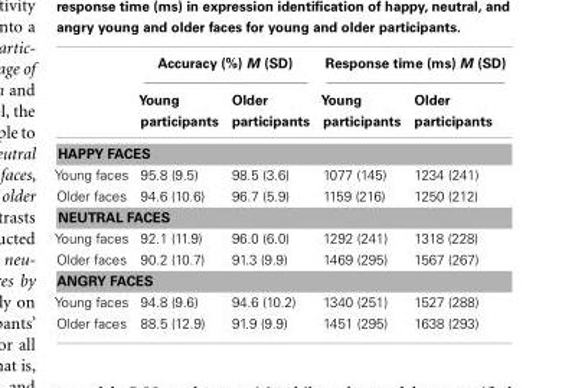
<table><thead><tr><td rowspan="2"></td><td colspan="2">Accuracy (%) M (SD)</td><td colspan="2">Response time (ms) M (SD)</td></tr><tr><td>Young participants</td><td>Older participants</td><td>Young participants</td><td>Older participants</td></tr></thead><tbody><tr><td colspan="5">HAPPY FACES</td></tr><tr><td>Young faces</td><td>95.8 (9.5)</td><td>98.5 (3.6)</td><td>1077 (145)</td><td>1234 (241)</td></tr><tr><td>Older faces</td><td>94.6 (10.6)</td><td>96.7 (5.9)</td><td>1159 (216)</td><td>1250 (212)</td></tr><tr><td colspan="5">NEUTRAL FACES</td></tr><tr><td>Young faces</td><td>92.1 (11.9)</td><td>96.0 (6.0)</td><td>1292 (241)</td><td>1318 (228)</td></tr><tr><td>Older faces</td><td>90.2 (10.7)</td><td>91.3 (9.9)</td><td>1469 (295)</td><td>1567 (267)</td></tr><tr><td colspan="5">ANGRY FACES</td></tr><tr><td>Young faces</td><td>94.8 (9.6)</td><td>94.6 (10.2)</td><td>1340 (251)</td><td>1527 (288)</td></tr><tr><td>Older faces</td><td>88.5 (12.9)</td><td>91.9 (9.9)</td><td>1451 (295)</td><td>1638 (293)</td></tr></tbody></table>